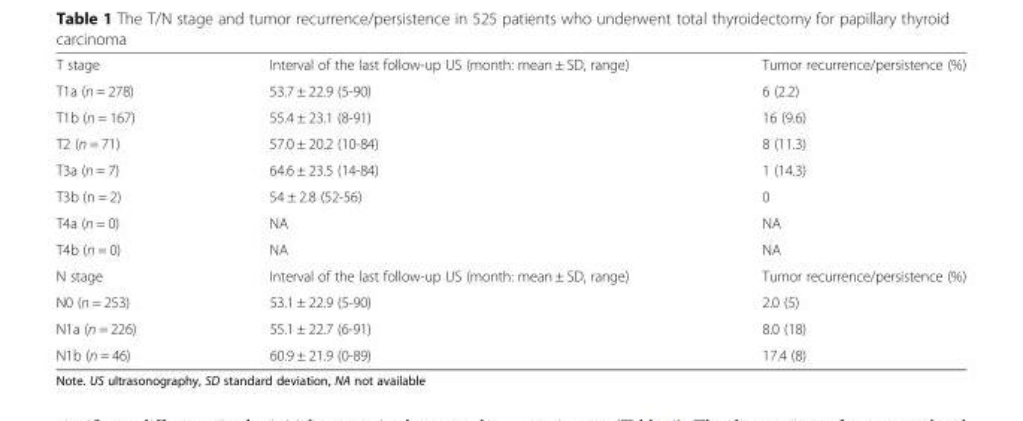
<table><tbody><tr><td>T stage</td><td>Interval of the last follow-up US (month: mean ± SD, range)</td><td>Tumor recurrence/persistence (%)</td></tr><tr><td>T1a (n = 278)</td><td>53.7 ± 22.9 (5-90)</td><td>6 (2.2)</td></tr><tr><td>T1b (n = 167)</td><td>55.4 ± 23.1 (8-91)</td><td>16 (9.6)</td></tr><tr><td>T2 (n = 71)</td><td>57.0 ± 20.2 (10-84)</td><td>8 (11.3)</td></tr><tr><td>T3a (n = 7)</td><td>64.6 ± 23.5 (14-84)</td><td>1 (14.3)</td></tr><tr><td>T3b (n = 2)</td><td>54 ± 2.8 (52-56)</td><td>0</td></tr><tr><td>T4a (n = 0)</td><td>NA</td><td>NA</td></tr><tr><td>T4b (n = 0)</td><td>NA</td><td>NA</td></tr><tr><td>N stage</td><td>Interval of the last follow-up US (month: mean ± SD, range)</td><td>Tumor recurrence/persistence (%)</td></tr><tr><td>N0 (n = 253)</td><td>53.1 ± 22.9 (5-90)</td><td>2.0 (5)</td></tr><tr><td>N1a (n = 226)</td><td>55.1 ± 22.7 (6-91)</td><td>8.0 (18)</td></tr><tr><td>N1b (n = 46)</td><td>60.9 ± 21.9 (0-89)</td><td>17.4 (8)</td></tr></tbody></table>